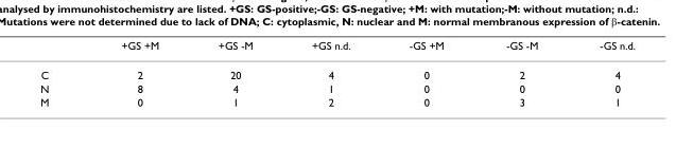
<table><thead><tr><td></td><td>+GS +M</td><td>+GS -M</td><td>+GS n.d.</td><td>-GS +M</td><td>-GS -M</td><td>-GS n.d.</td></tr></thead><tbody><tr><td>C</td><td>2</td><td>20</td><td>4</td><td>0</td><td>2</td><td>4</td></tr><tr><td>N</td><td>8</td><td>4</td><td>1</td><td>0</td><td>0</td><td>0</td></tr><tr><td>M</td><td>0</td><td>1</td><td>2</td><td>0</td><td>3</td><td>1</td></tr></tbody></table>